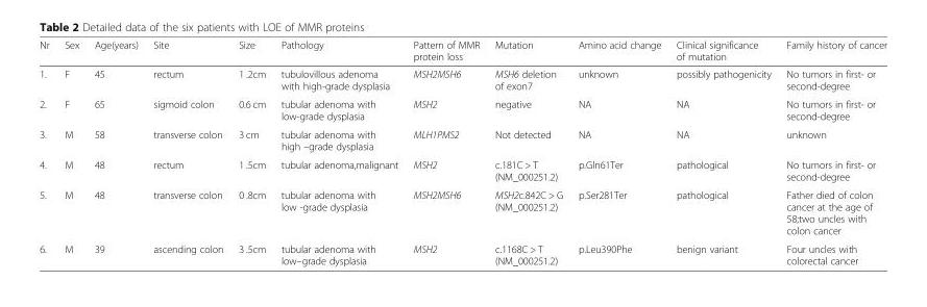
<table><thead><tr><td>Nr</td><td>Sex</td><td>Age(years)</td><td>Site</td><td>Size</td><td>Pathology</td><td>Pattern of MMR protein loss</td><td>Mutation</td><td>Amino acid change</td><td>Clinical significance of mutation</td><td>Family history of cancer</td></tr></thead><tbody><tr><td>1.</td><td>F</td><td>45</td><td>rectum</td><td>1 .2cm</td><td>tubulovillous adenoma with high-grade dysplasia</td><td>MSH2MSH6</td><td>MSH6 deletion of exon7</td><td>unknown</td><td>possibly pathogenicity</td><td>No tumors in first- or second-degree</td></tr><tr><td>2.</td><td>F</td><td>65</td><td>sigmoid colon</td><td>0.6 cm</td><td>tubular adenoma with low-grade dysplasia</td><td>MSH2</td><td>negative</td><td>NA</td><td>NA</td><td>No tumors in first- or second-degree</td></tr><tr><td>3.</td><td>M</td><td>58</td><td>transverse colon</td><td>3 cm</td><td>tubular adenoma with high –grade dysplasia</td><td>MLH1PMS2</td><td>Not detected</td><td>NA</td><td>NA</td><td>unknown</td></tr><tr><td>4.</td><td>M</td><td>48</td><td>rectum</td><td>1 .5cm</td><td>tubular adenoma,malignant</td><td>MSH2</td><td>c.181C &gt; T (NM_000251.2)</td><td>p.Gln61Ter</td><td>pathological</td><td>No tumors in first- or second-degree</td></tr><tr><td>5.</td><td>M</td><td>48</td><td>transverse colon</td><td>0 .8cm</td><td>tubular adenoma with low -grade dysplasia</td><td>MSH2MSH6</td><td>MSH2c.842C &gt; G (NM_000251.2)</td><td>p.Ser281Ter</td><td>pathological</td><td>Father died of colon cancer at the age of 58;two uncles with colon cancer</td></tr><tr><td>6.</td><td>M</td><td>39</td><td>ascending colon</td><td>3 .5cm</td><td>tubular adenoma with low–grade dysplasia</td><td>MSH2</td><td>c.1168C &gt; T (NM_000251.2)</td><td>p.Leu390Phe</td><td>benign variant</td><td>Four uncles with colorectal cancer</td></tr></tbody></table>